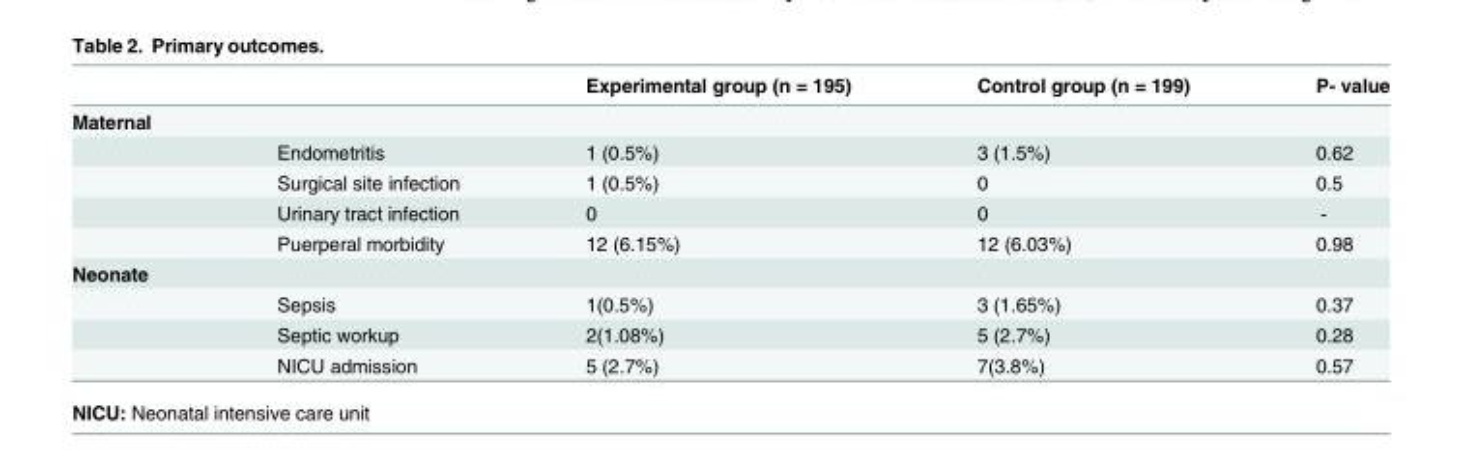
<table><thead><tr><td></td><td></td><td>Experimental group (n = 195)</td><td>Control group (n = 199)</td><td>P- value</td></tr></thead><tbody><tr><td colspan="5">Maternal</td></tr><tr><td></td><td>Endometritis</td><td>1 (0.5%)</td><td>3 (1.5%)</td><td>0.62</td></tr><tr><td></td><td>Surgical site infection</td><td>1 (0.5%)</td><td>0</td><td>0.5</td></tr><tr><td></td><td>Urinary tract infection</td><td>0</td><td>0</td><td>-</td></tr><tr><td></td><td>Puerperal morbidity</td><td>12 (6.15%)</td><td>12 (6.03%)</td><td>0.98</td></tr><tr><td colspan="5">Neonate</td></tr><tr><td></td><td>Sepsis</td><td>1(0.5%)</td><td>3 (1.65%)</td><td>0.37</td></tr><tr><td></td><td>Septic workup</td><td>2(1.08%)</td><td>5 (2.7%)</td><td>0.28</td></tr><tr><td></td><td>NICU admission</td><td>5 (2.7%)</td><td>7(3.8%)</td><td>0.57</td></tr></tbody></table>